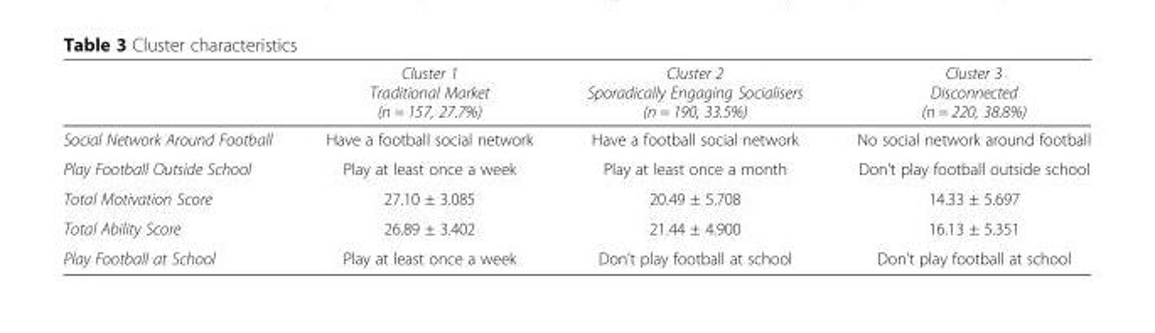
<table><thead><tr><td></td><td>Cluster 1 Traditional Market (n = 157, 27.7%)</td><td>Cluster 2 Sporadically Engaging Socialisers (n = 190, 33.5%)</td><td>Cluster 3 Disconnected (n = 220, 38.8%)</td></tr></thead><tbody><tr><td>Social Network Around Football</td><td>Have a football social network</td><td>Have a football social network</td><td>No social network around football</td></tr><tr><td>Play Football Outside School</td><td>Play at least once a week</td><td>Play at least once a month</td><td>Don’t play football outside school</td></tr><tr><td>Total Motivation Score</td><td>27.10 ± 3.085</td><td>20.49 ± 5.708</td><td>14.33 ± 5.697</td></tr><tr><td>Total Ability Score</td><td>26.89 ± 3.402</td><td>21.44 ± 4.900</td><td>16.13 ± 5.351</td></tr><tr><td>Play Football at School</td><td>Play at least once a week</td><td>Don’t play football at school</td><td>Don’t play football at school</td></tr></tbody></table>